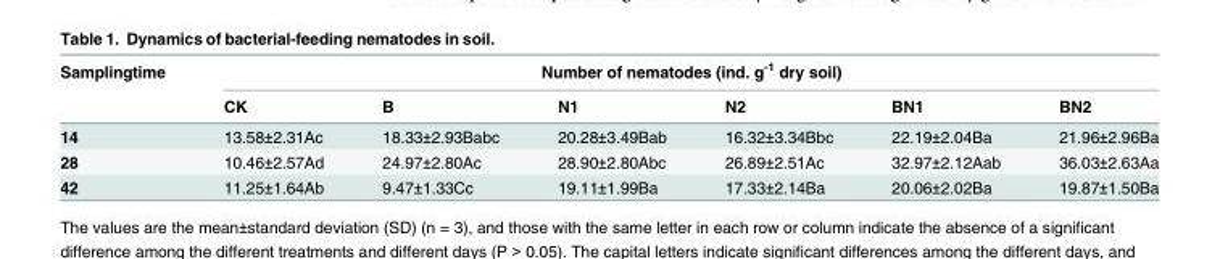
<table><thead><tr><td rowspan="2">Samplingtime</td><td colspan="6">Number of nematodes (ind. g<sup>-1</sup> dry soil)</td></tr><tr><td>CK</td><td>B</td><td>N1</td><td>N2</td><td>BN1</td><td>BN2</td></tr></thead><tbody><tr><td>14</td><td>13.58±2.31Ac</td><td>18.33±2.93Babc</td><td>20.28±3.49Bab</td><td>16.32±3.34Bbc</td><td>22.19±2.04Ba</td><td>21.96±2.96Ba</td></tr><tr><td>28</td><td>10.46±2.57Ad</td><td>24.97±2.80Ac</td><td>28.90±2.80Abc</td><td>26.89±2.51Ac</td><td>32.97±2.12Aab</td><td>36.03±2.63Aa</td></tr><tr><td>42</td><td>11.25±1.64Ab</td><td>9.47±1.33Cc</td><td>19.11±1.99Ba</td><td>17.33±2.14Ba</td><td>20.06±2.02Ba</td><td>19.87±1.50Ba</td></tr></tbody></table>